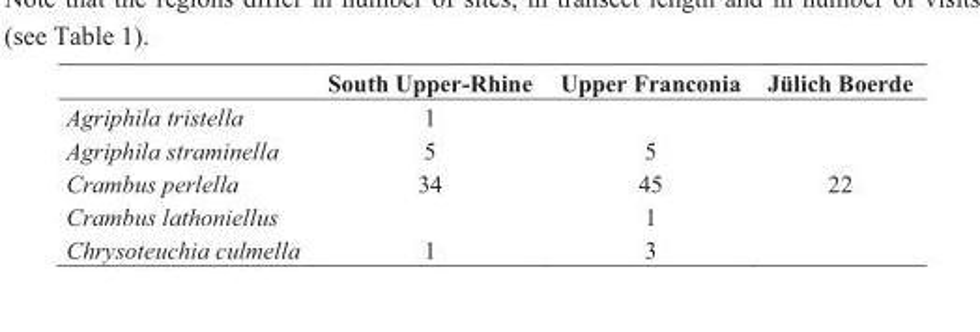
<table><thead><tr><td></td><td>South Upper-Rhine</td><td>Upper Franconia</td><td>Jülich Boerde</td></tr></thead><tbody><tr><td>Agriphila tristella</td><td>1</td><td></td><td></td></tr><tr><td>Agriphila straminella</td><td>5</td><td>5</td><td></td></tr><tr><td>Crambus perlella</td><td>34</td><td>45</td><td>22</td></tr><tr><td>Crambus lathoniellus</td><td></td><td>1</td><td></td></tr><tr><td>Chrysoteuchia culmella</td><td>1</td><td>3</td><td></td></tr></tbody></table>